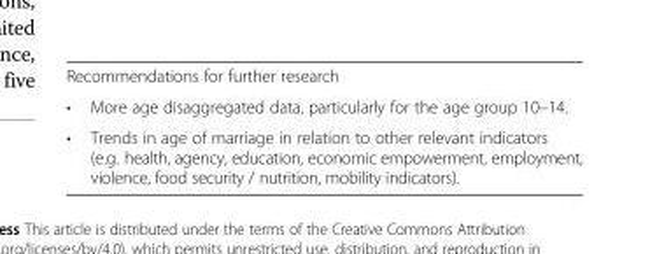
<table><tbody><tr><td colspan="2">Recommendations for further research</td></tr><tr><td>•</td><td>More age disaggregated data, particularly for the age group 10–14.</td></tr><tr><td>•</td><td>Trends in age of marriage in relation to other relevant indicators (e.g. health, agency, education, economic empowerment, employment, violence, food security / nutrition, mobility indicators).</td></tr></tbody></table>